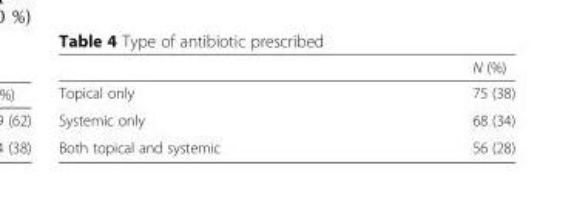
<table><thead><tr><td></td><td>N (%)</td></tr></thead><tbody><tr><td>Topical only</td><td>75 (38)</td></tr><tr><td>Systemic only</td><td>68 (34)</td></tr><tr><td>Both topical and systemic</td><td>56 (28)</td></tr></tbody></table>